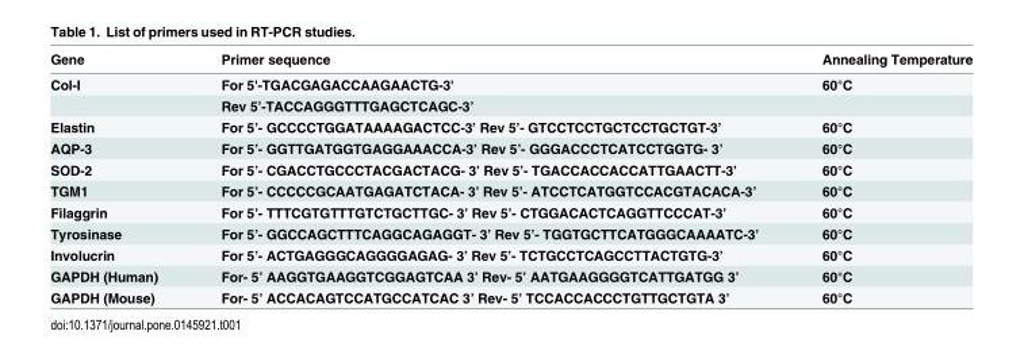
<table><thead><tr><td>Gene</td><td>Primer sequence</td><td>Annealing Temperature</td></tr></thead><tbody><tr><td rowspan="2">Col-I</td><td>For 5&#x27;-TGACGAGACCAAGAACTG-3&#x27;</td><td>60°C</td></tr><tr><td>Rev 5’-TACCAGGGTTTGAGCTCAGC-3’</td><td></td></tr><tr><td>Elastin</td><td>For 5’- GCCCCTGGATAAAAGACTCC-3’ Rev 5’- GTCCTCCTGCTCCTGCTGT-3’</td><td>60°C</td></tr><tr><td>AQP-3</td><td>For 5’- GGTTGATGGTGAGGAAACCA-3’ Rev 5’- GGGACCCTCATCCTGGTG- 3’</td><td>60°C</td></tr><tr><td>SOD-2</td><td>For 5’- CGACCTGCCCTACGACTACG- 3’ Rev 5’- TGACCACCACCATTGAACTT-3’</td><td>60°C</td></tr><tr><td>TGM1</td><td>For 5’- CCCCCGCAATGAGATCTACA- 3’ Rev 5’- ATCCTCATGGTCCACGTACACA-3’</td><td>60°C</td></tr><tr><td>Filaggrin</td><td>For 5’- TTTCGTGTTTGTCTGCTTGC- 3’ Rev 5’- CTGGACACTCAGGTTCCCAT-3’</td><td>60°C</td></tr><tr><td>Tyrosinase</td><td>For 5’- GGCCAGCTTTCAGGCAGAGGT- 3’ Rev 5’- TGGTGCTTCATGGGCAAAATC-3’</td><td>60°C</td></tr><tr><td>Involucrin</td><td>For 5’- ACTGAGGGCAGGGGAGAG- 3’ Rev 5’- TCTGCCTCAGCCTTACTGTG-3’</td><td>60°C</td></tr><tr><td>GAPDH (Human)</td><td>For- 5’ AAGGTGAAGGTCGGAGTCAA 3’ Rev- 5’ AATGAAGGGGTCATTGATGG 3’</td><td>60°C</td></tr><tr><td>GAPDH (Mouse)</td><td>For- 5’ ACCACAGTCCATGCCATCAC 3’ Rev- 5’ TCCACCACCCTGTTGCTGTA 3’</td><td>60°C</td></tr></tbody></table>